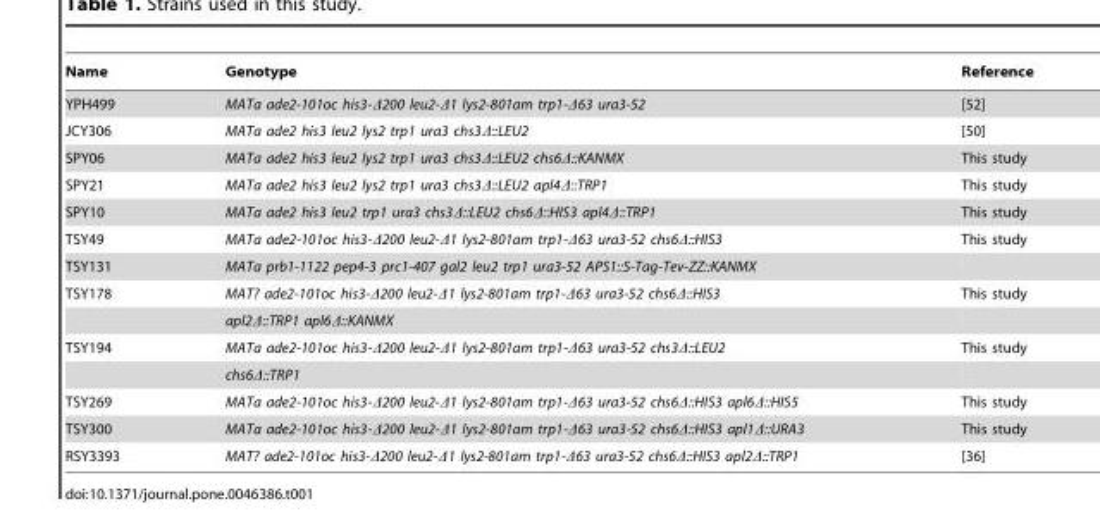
<table><thead><tr><td>Name</td><td>Genotype</td><td>Reference</td></tr></thead><tbody><tr><td>YPH499</td><td>MATa ade2-101oc his3-Δ200 leu2-Δ1 lys2-801am trp1-Δ63 ura3-52</td><td>[52]</td></tr><tr><td>JCY306</td><td>MATa ade2 his3 leu2 lys2 trp1 ura3 chs3Δ::LEU2</td><td>[50]</td></tr><tr><td>SPY06</td><td>MATa ade2 his3 leu2 lys2 trp1 ura3 chs3Δ::LEU2 chs6Δ::KANMX</td><td>This study</td></tr><tr><td>SPY21</td><td>MATa ade2 his3 leu2 lys2 trp1 ura3 chs3Δ::LEU2 apl4Δ::TRP1</td><td>This study</td></tr><tr><td>SPY10</td><td>MATa ade2 his3 leu2 trp1 ura3 chs3Δ::LEU2 chs6Δ::HIS3 apl4Δ::TRP1</td><td>This study</td></tr><tr><td>TSY49</td><td>MATa ade2-101oc his3-Δ200 leu2-Δ1 lys2-801am trp1-Δ63 ura3-52 chs6Δ::HIS3</td><td>This study</td></tr><tr><td>TSY131</td><td>MATa prb1-1122 pep4-3 prc1-407 gal2 leu2 trp1 ura3-52 APS1::S-Tag-Tev-ZZ::KANMX</td><td></td></tr><tr><td rowspan="2">TSY178</td><td>MAT? ade2-101oc his3-Δ200 leu2-Δ1 lys2-801am trp1-Δ63 ura3-52 chs6Δ::HIS3</td><td>This study</td></tr><tr><td>apl2Δ::TRP1 apl6Δ::KANMX</td><td></td></tr><tr><td rowspan="2">TSY194</td><td>MATa ade2-101oc his3-Δ200 leu2-Δ1 lys2-801am trp1-Δ63 ura3-52 chs3Δ::LEU2</td><td>This study</td></tr><tr><td>chs6Δ::TRP1</td><td></td></tr><tr><td>TSY269</td><td>MATa ade2-101oc his3-Δ200 leu2-Δ1 lys2-801am trp1-Δ63 ura3-52 chs6Δ::HIS3 apl6Δ::HIS5</td><td>This study</td></tr><tr><td>TSY300</td><td>MATa ade2-101oc his3-Δ200 leu2-Δ1 lys2-801am trp1-Δ63 ura3-52 chs6Δ::HIS3 apl1Δ::URA3</td><td>This study</td></tr><tr><td>RSY3393</td><td>MAT? ade2-101oc his3-Δ200 leu2-Δ1 lys2-801am trp1-Δ63 ura3-52 chs6Δ::HIS3 apl2Δ::TRP1</td><td>[36]</td></tr></tbody></table>